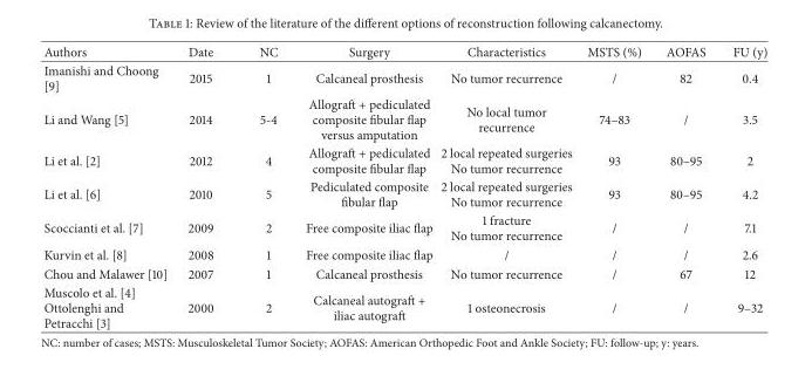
<table><thead><tr><td>Authors</td><td>Date</td><td>NC</td><td>Surgery</td><td>Characteristics</td><td>MSTS (%)</td><td>AOFAS</td><td>FU (y)</td></tr></thead><tbody><tr><td>Imanishi and Choong [9]</td><td>2015</td><td>1</td><td>Calcaneal prosthesis</td><td>No tumor recurrence</td><td>/</td><td>82</td><td>0.4</td></tr><tr><td>Li and Wang [5]</td><td>2014</td><td>5-4</td><td>Allograft + pediculated composite fibular flap versus amputation</td><td>No local tumor recurrence</td><td>74–83</td><td>/</td><td>3.5</td></tr><tr><td>Li et al. [2]</td><td>2012</td><td>4</td><td>Allograft + pediculated composite fibular flap</td><td>2 local repeated surgeries No tumor recurrence</td><td>93</td><td>80–95</td><td>2</td></tr><tr><td>Li et al. [6]</td><td>2010</td><td>5</td><td>Pediculated composite fibular flap</td><td>2 local repeated surgeries No tumor recurrence</td><td>93</td><td>80–95</td><td>4.2</td></tr><tr><td>Scoccianti et al. [7]</td><td>2009</td><td>2</td><td>Free composite iliac flap</td><td>1 fracture No tumor recurrence</td><td>/</td><td>/</td><td>7.1</td></tr><tr><td>Kurvin et al. [8]</td><td>2008</td><td>1</td><td>Free composite iliac flap</td><td>/</td><td>/</td><td>/</td><td>2.6</td></tr><tr><td>Chou and Malawer [10]</td><td>2007</td><td>1</td><td>Calcaneal prosthesis</td><td>No tumor recurrence</td><td>/</td><td>67</td><td>12</td></tr><tr><td>Muscolo et al. [4] Ottolenghi and Petracchi [3]</td><td>2000</td><td>2</td><td>Calcaneal autograft + iliac autograft</td><td>1 osteonecrosis</td><td>/</td><td>/</td><td>9–32</td></tr></tbody></table>